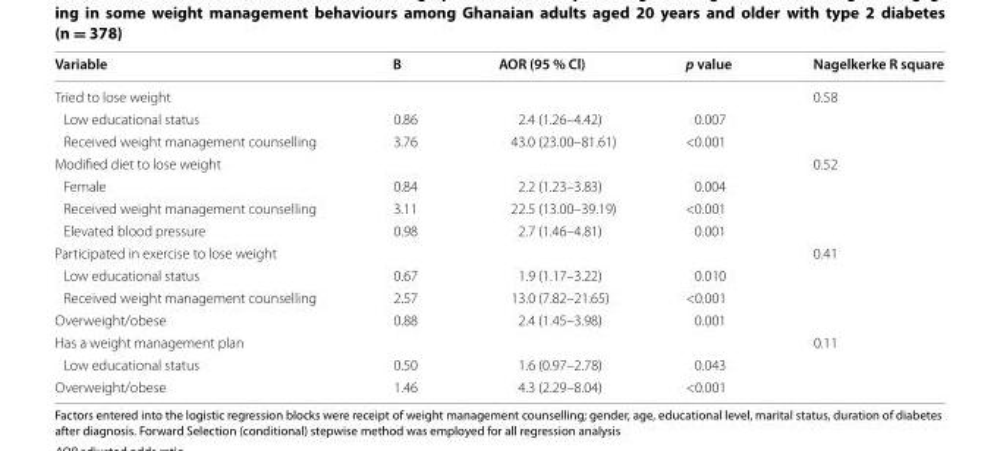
<table><thead><tr><td>Variable</td><td>B</td><td>AOR (95 % Cl)</td><td>p value</td><td>Nagelkerke R square</td></tr></thead><tbody><tr><td colspan="4">Tried to lose weight</td><td>0.58</td></tr><tr><td>Low educational status</td><td>0.86</td><td>2.4 (1.26–4.42)</td><td>0.007</td><td></td></tr><tr><td>Received weight management counselling</td><td>3.76</td><td>43.0 (23.00–81.61)</td><td>&lt;0.001</td><td></td></tr><tr><td colspan="4">Modified diet to lose weight</td><td>0.52</td></tr><tr><td>Female</td><td>0.84</td><td>2.2 (1.23–3.83)</td><td>0.004</td><td></td></tr><tr><td>Received weight management counselling</td><td>3.11</td><td>22.5 (13.00–39.19)</td><td>&lt;0.001</td><td></td></tr><tr><td>Elevated blood pressure</td><td>0.98</td><td>2.7 (1.46–4.81)</td><td>0.001</td><td></td></tr><tr><td colspan="4">Participated in exercise to lose weight</td><td>0.41</td></tr><tr><td>Low educational status</td><td>0.67</td><td>1.9 (1.17–3.22)</td><td>0.010</td><td></td></tr><tr><td>Received weight management counselling</td><td>2.57</td><td>13.0 (7.82–21.65)</td><td>&lt;0.001</td><td></td></tr><tr><td>Overweight/obese</td><td>0.88</td><td>2.4 (1.45–3.98)</td><td>0.001</td><td></td></tr><tr><td colspan="4">Has a weight management plan</td><td>0.11</td></tr><tr><td>Low educational status</td><td>0.50</td><td>1.6 (0.97–2.78)</td><td>0.043</td><td></td></tr><tr><td>Overweight/obese</td><td>1.46</td><td>4.3 (2.29–8.04)</td><td>&lt;0.001</td><td></td></tr></tbody></table>